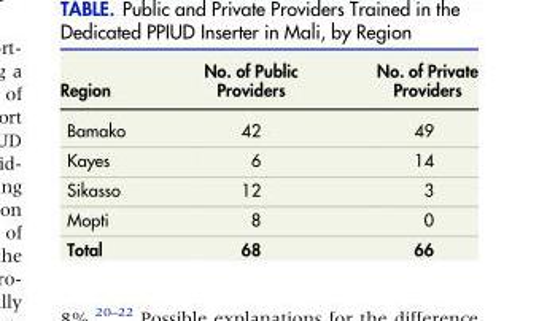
<table><thead><tr><td>Region</td><td>No. of Public Providers</td><td>No. of Private Providers</td></tr></thead><tbody><tr><td>Bamako</td><td>42</td><td>49</td></tr><tr><td>Kayes</td><td>6</td><td>14</td></tr><tr><td>Sikasso</td><td>12</td><td>3</td></tr><tr><td>Mopti</td><td>8</td><td>0</td></tr><tr><td>Total</td><td>68</td><td>66</td></tr></tbody></table>